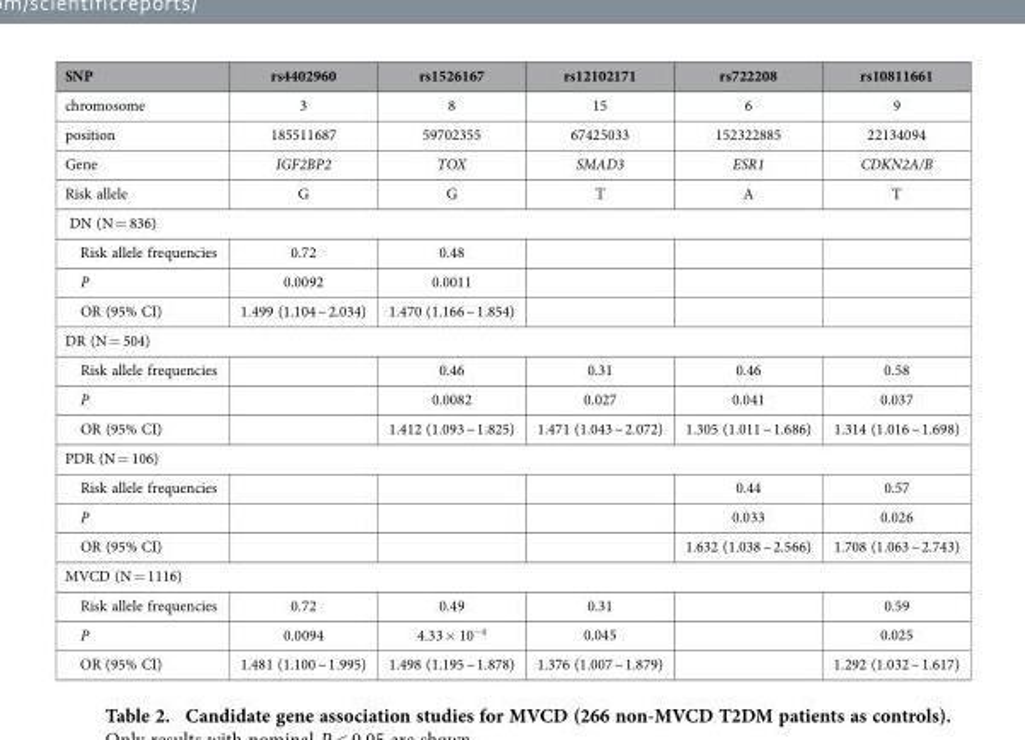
<table><thead><tr><td>SNP</td><td>rs4402960</td><td>rs1526167</td><td>rs12102171</td><td>rs722208</td><td>rs10811661</td></tr></thead><tbody><tr><td>chromosome</td><td>3</td><td>8</td><td>15</td><td>6</td><td>9</td></tr><tr><td>position</td><td>185511687</td><td>59702355</td><td>67425033</td><td>152322885</td><td>22134094</td></tr><tr><td>Gene</td><td>IGF2BP2</td><td>TOX</td><td>SMAD3</td><td>ESR1</td><td>CDKN2A/B</td></tr><tr><td>Risk allele</td><td>G</td><td>G</td><td>T</td><td>A</td><td>T</td></tr><tr><td colspan="6">DN (N = 836)</td></tr><tr><td>Risk allele frequencies</td><td>0.72</td><td>0.48</td><td></td><td></td><td></td></tr><tr><td>P</td><td>0.0092</td><td>0.0011</td><td></td><td></td><td></td></tr><tr><td>OR (95% CI)</td><td>1.499 (1.104 ~ 2.034)</td><td>1.470 (1.166 ~ 1.854)</td><td></td><td></td><td></td></tr><tr><td colspan="6">DR (N = 504)</td></tr><tr><td>Risk allele frequencies</td><td></td><td>0.46</td><td>0.31</td><td>0.46</td><td>0.58</td></tr><tr><td>P</td><td></td><td>0.0082</td><td>0.027</td><td>0.041</td><td>0.037</td></tr><tr><td>OR (95% CI)</td><td></td><td>1.412 (1.093 ~ 1.825)</td><td>1.471 (1.043 ~ 2.072)</td><td>1.305 (1.011 ~ 1.686)</td><td>1.314 (1.016 ~ 1.698)</td></tr><tr><td colspan="6">PDR (N = 106)</td></tr><tr><td>Risk allele frequencies</td><td></td><td></td><td></td><td>0.44</td><td>0.57</td></tr><tr><td>P</td><td></td><td></td><td></td><td>0.033</td><td>0.026</td></tr><tr><td>OR (95% CI)</td><td></td><td></td><td></td><td>1.632 (1.038 ~ 2.566)</td><td>1.708 (1.063 ~ 2.743)</td></tr><tr><td colspan="6">MVCD (N = 1116)</td></tr><tr><td>Risk allele frequencies</td><td>0.72</td><td>0.49</td><td>0.31</td><td></td><td>0.59</td></tr><tr><td>P</td><td>0.0094</td><td>4.33 × 10<sup>−4</sup></td><td>0.045</td><td></td><td>0.025</td></tr><tr><td>OR (95% CI)</td><td>1.481 (1.100 ~ 1.995)</td><td>1.498 (1.195 ~ 1.878)</td><td>1.376 (1.007 ~ 1.879)</td><td></td><td>1.292 (1.032 ~ 1.617)</td></tr></tbody></table>